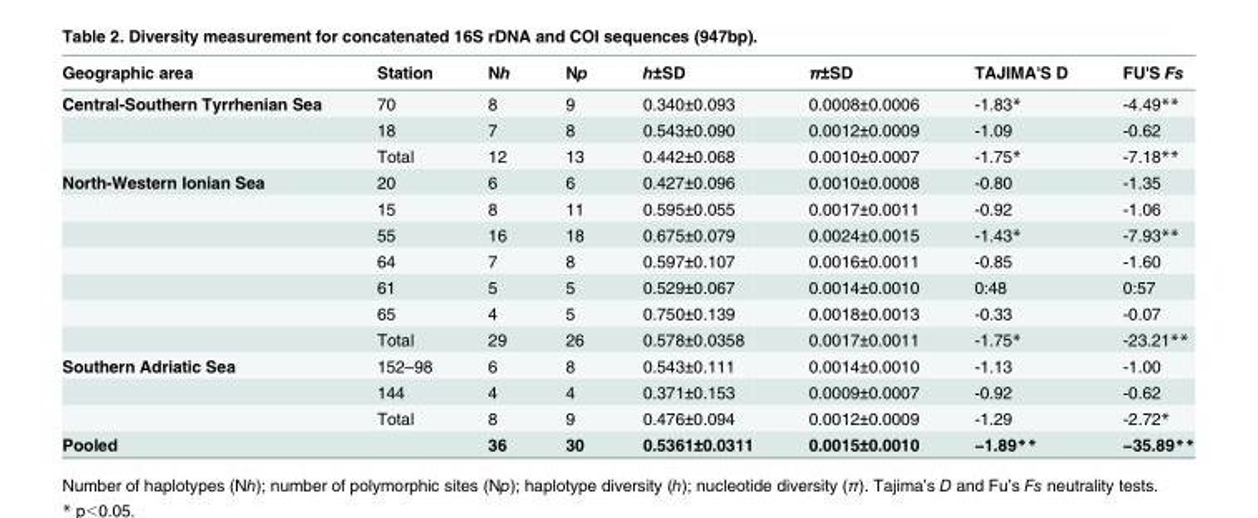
<table><thead><tr><td>Geographic area</td><td>Station</td><td>Nh</td><td>Np</td><td>h±SD</td><td>π±SD</td><td>TAJIMA&#x27;S D</td><td>FU&#x27;S Fs</td></tr></thead><tbody><tr><td rowspan="3">Central-Southern Tyrrhenian Sea</td><td>70</td><td>8</td><td>9</td><td>0.340±0.093</td><td>0.0008±0.0006</td><td>-1.83*</td><td>-4.49**</td></tr><tr><td>18</td><td>7</td><td>8</td><td>0.543±0.090</td><td>0.0012±0.0009</td><td>-1.09</td><td>-0.62</td></tr><tr><td>Total</td><td>12</td><td>13</td><td>0.442±0.068</td><td>0.0010±0.0007</td><td>-1.75*</td><td>-7.18**</td></tr><tr><td rowspan="7">North-Western Ionian Sea</td><td>20</td><td>6</td><td>6</td><td>0.427±0.096</td><td>0.0010±0.0008</td><td>-0.80</td><td>-1.35</td></tr><tr><td>15</td><td>8</td><td>11</td><td>0.595±0.055</td><td>0.0017±0.0011</td><td>-0.92</td><td>-1.06</td></tr><tr><td>55</td><td>16</td><td>18</td><td>0.675±0.079</td><td>0.0024±0.0015</td><td>-1.43*</td><td>-7.93**</td></tr><tr><td>64</td><td>7</td><td>8</td><td>0.597±0.107</td><td>0.0016±0.0011</td><td>-0.85</td><td>-1.60</td></tr><tr><td>61</td><td>5</td><td>5</td><td>0.529±0.067</td><td>0.0014±0.0010</td><td>0:48</td><td>0:57</td></tr><tr><td>65</td><td>4</td><td>5</td><td>0.750±0.139</td><td>0.0018±0.0013</td><td>-0.33</td><td>-0.07</td></tr><tr><td>Total</td><td>29</td><td>26</td><td>0.578±0.0358</td><td>0.0017±0.0011</td><td>-1.75*</td><td>-23.21**</td></tr><tr><td rowspan="3">Southern Adriatic Sea</td><td>152–98</td><td>6</td><td>8</td><td>0.543±0.111</td><td>0.0014±0.0010</td><td>-1.13</td><td>-1.00</td></tr><tr><td>144</td><td>4</td><td>4</td><td>0.371±0.153</td><td>0.0009±0.0007</td><td>-0.92</td><td>-0.62</td></tr><tr><td>Total</td><td>8</td><td>9</td><td>0.476±0.094</td><td>0.0012±0.0009</td><td>-1.29</td><td>-2.72*</td></tr><tr><td>Pooled</td><td></td><td>36</td><td>30</td><td>0.5361±0.0311</td><td>0.0015±0.0010</td><td>−1.89**</td><td>−35.89**</td></tr></tbody></table>